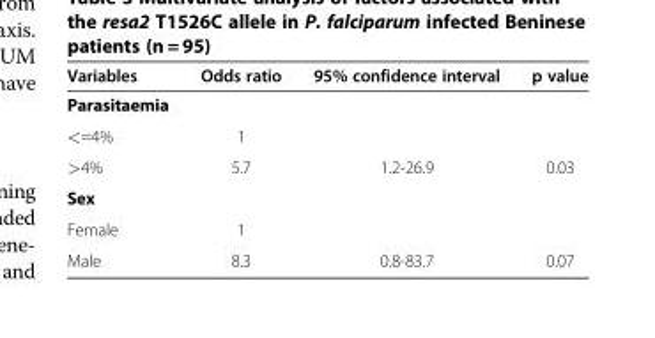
<table><thead><tr><td>Variables</td><td>Odds ratio</td><td>95% confidence interval</td><td>p value</td></tr></thead><tbody><tr><td colspan="4">Parasitaemia</td></tr><tr><td>&lt;=4%</td><td>1</td><td></td><td></td></tr><tr><td>&gt;4%</td><td>5.7</td><td>1.2-26.9</td><td>0.03</td></tr><tr><td colspan="4">Sex</td></tr><tr><td>Female</td><td>1</td><td></td><td></td></tr><tr><td>Male</td><td>8.3</td><td>0.8-83.7</td><td>0.07</td></tr></tbody></table>